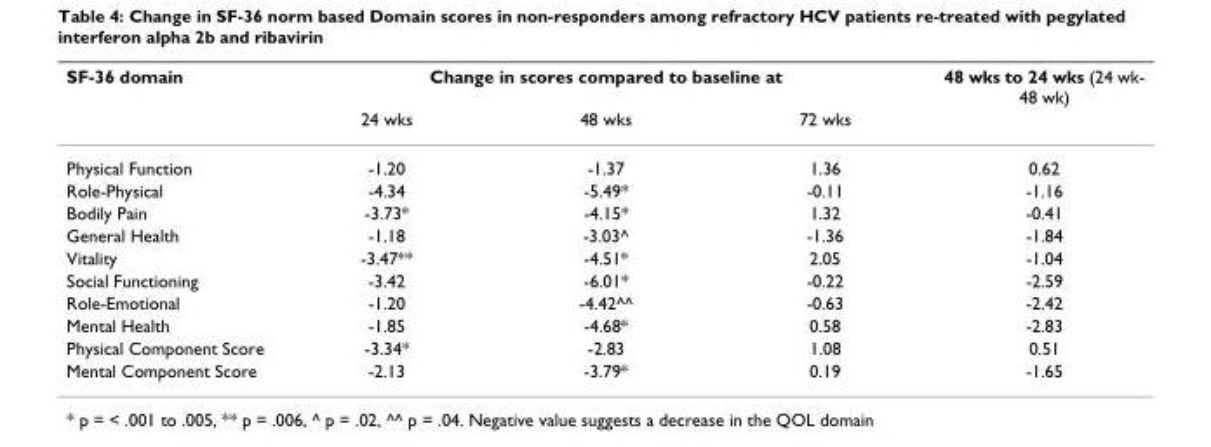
<table><thead><tr><td rowspan="2">SF-36 domain</td><td colspan="3">Change in scores compared to baseline at</td><td rowspan="2">48 wks to 24 wks (24 wk- 48 wk)</td></tr><tr><td>24 wks</td><td>48 wks</td><td>72 wks</td></tr></thead><tbody><tr><td>Physical Function</td><td>-1.20</td><td>-1.37</td><td>1.36</td><td>0.62</td></tr><tr><td>Role-Physical</td><td>-4.34</td><td>-5.49*</td><td>-0.11</td><td>-1.16</td></tr><tr><td>Bodily Pain</td><td>-3.73*</td><td>-4.15*</td><td>1.32</td><td>-0.41</td></tr><tr><td>General Health</td><td>-1.18</td><td>-3.03^</td><td>-1.36</td><td>-1.84</td></tr><tr><td>Vitality</td><td>-3.47**</td><td>-4.51*</td><td>2.05</td><td>-1.04</td></tr><tr><td>Social Functioning</td><td>-3.42</td><td>-6.01*</td><td>-0.22</td><td>-2.59</td></tr><tr><td>Role-Emotional</td><td>-1.20</td><td>-4.42^^</td><td>-0.63</td><td>-2.42</td></tr><tr><td>Mental Health</td><td>-1.85</td><td>-4.68*</td><td>0.58</td><td>-2.83</td></tr><tr><td>Physical Component Score</td><td>-3.34*</td><td>-2.83</td><td>1.08</td><td>0.51</td></tr><tr><td>Mental Component Score</td><td>-2.13</td><td>-3.79*</td><td>0.19</td><td>-1.65</td></tr></tbody></table>